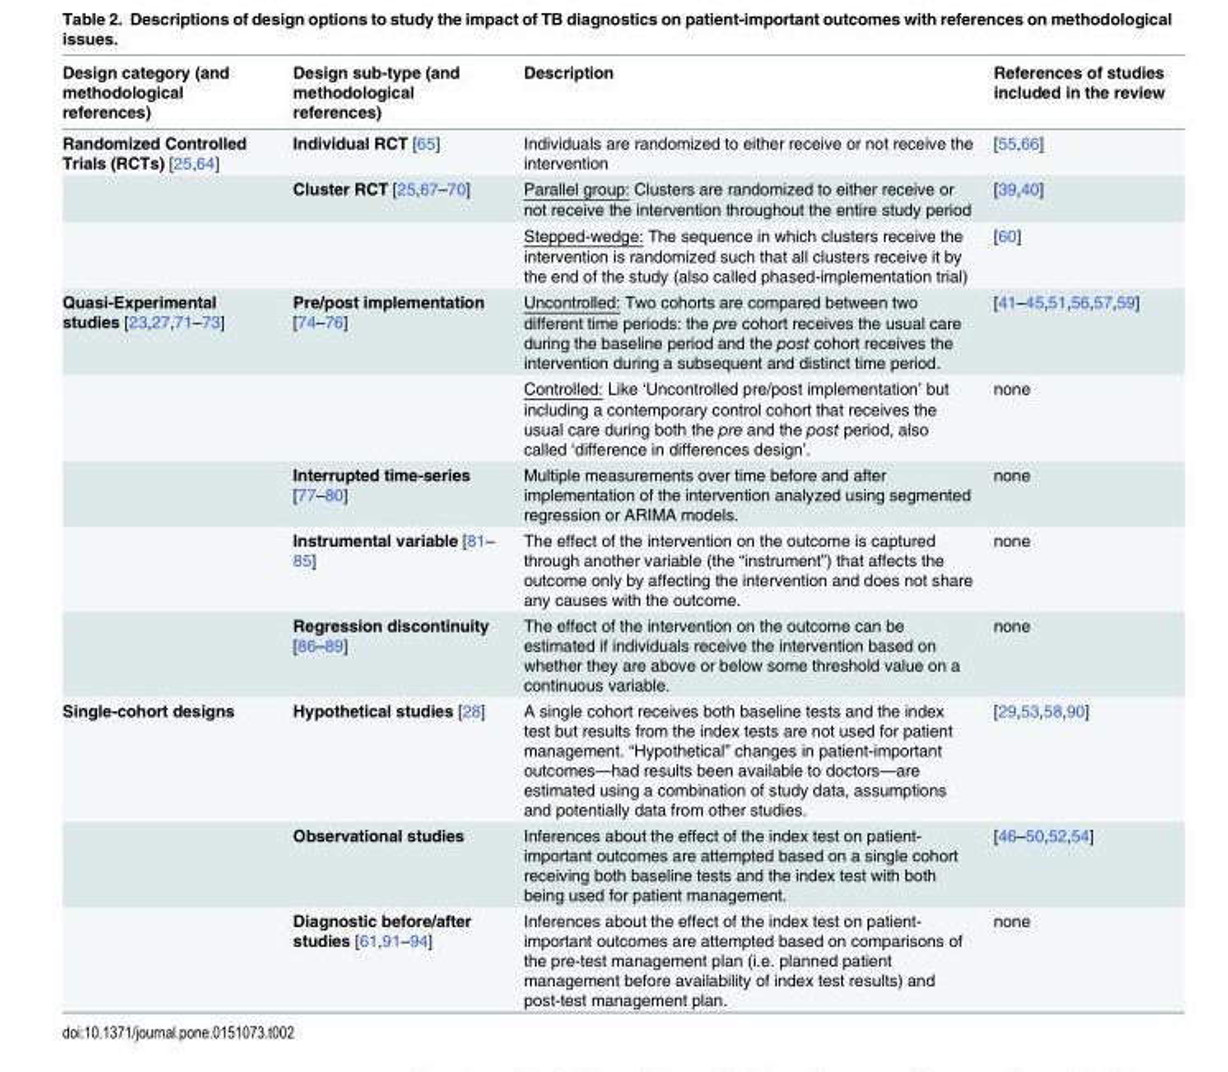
<table><thead><tr><td>Design category (and methodological references)</td><td>Design sub-type (and methodological references)</td><td>Description</td><td>References of studies included in the review</td></tr></thead><tbody><tr><td rowspan="3">Randomized Controlled Trials (RCTs) [25,64]</td><td>Individual RCT [65]</td><td>Individuals are randomized to either receive or not receive the intervention</td><td>[55,66]</td></tr><tr><td>Cluster RCT [25,67–70]</td><td>Parallel group: Clusters are randomized to either receive or not receive the intervention throughout the entire study period</td><td>[39,40]</td></tr><tr><td></td><td>Stepped-wedge: The sequence in which clusters receive the intervention is randomized such that all clusters receive it by the end of the study (also called phased-implementation trial)</td><td>[60]</td></tr><tr><td rowspan="5">Quasi-Experimental studies [23,27,71–73]</td><td>Pre/post implementation [74–76]</td><td>Uncontrolled: Two cohorts are compared between two different time periods: the pre cohort receives the usual care during the baseline period and the post cohort receives the intervention during a subsequent and distinct time period.</td><td>[41–45,51,56,57,59]</td></tr><tr><td></td><td>Controlled: Like ‘Uncontrolled pre/post implementation’ but including a contemporary control cohort that receives the usual care during both the pre and the post period, also called ‘difference in differences design’.</td><td>none</td></tr><tr><td>Interrupted time-series [77–80]</td><td>Multiple measurements over time before and after implementation of the intervention analyzed using segmented regression or ARIMA models.</td><td>none</td></tr><tr><td>Instrumental variable [81– 85]</td><td>The effect of the intervention on the outcome is captured through another variable (the “instrument”) that affects the outcome only by affecting the intervention and does not share any causes with the outcome.</td><td>none</td></tr><tr><td>Regression discontinuity [86–89]</td><td>The effect of the intervention on the outcome can be estimated if individuals receive the intervention based on whether they are above or below some threshold value on a continuous variable.</td><td>none</td></tr><tr><td rowspan="3">Single-cohort designs</td><td>Hypothetical studies [28]</td><td>A single cohort receives both baseline tests and the index test but results from the index tests are not used for patient management. “Hypothetical” changes in patient-important outcomes—had results been available to doctors—are estimated using a combination of study data, assumptions and potentially data from other studies.</td><td>[29,53,58,90]</td></tr><tr><td>Observational studies</td><td>Inferences about the effect of the index test on patient- important outcomes are attempted based on a single cohort receiving both baseline tests and the index test with both being used for patient management.</td><td>[46–50,52,54]</td></tr><tr><td>Diagnostic before/after studies [61,91–94]</td><td>Inferences about the effect of the index test on patient- important outcomes are attempted based on comparisons of the pre-test management plan (i.e. planned patient management before availability of index test results) and post-test management plan.</td><td>none</td></tr></tbody></table>